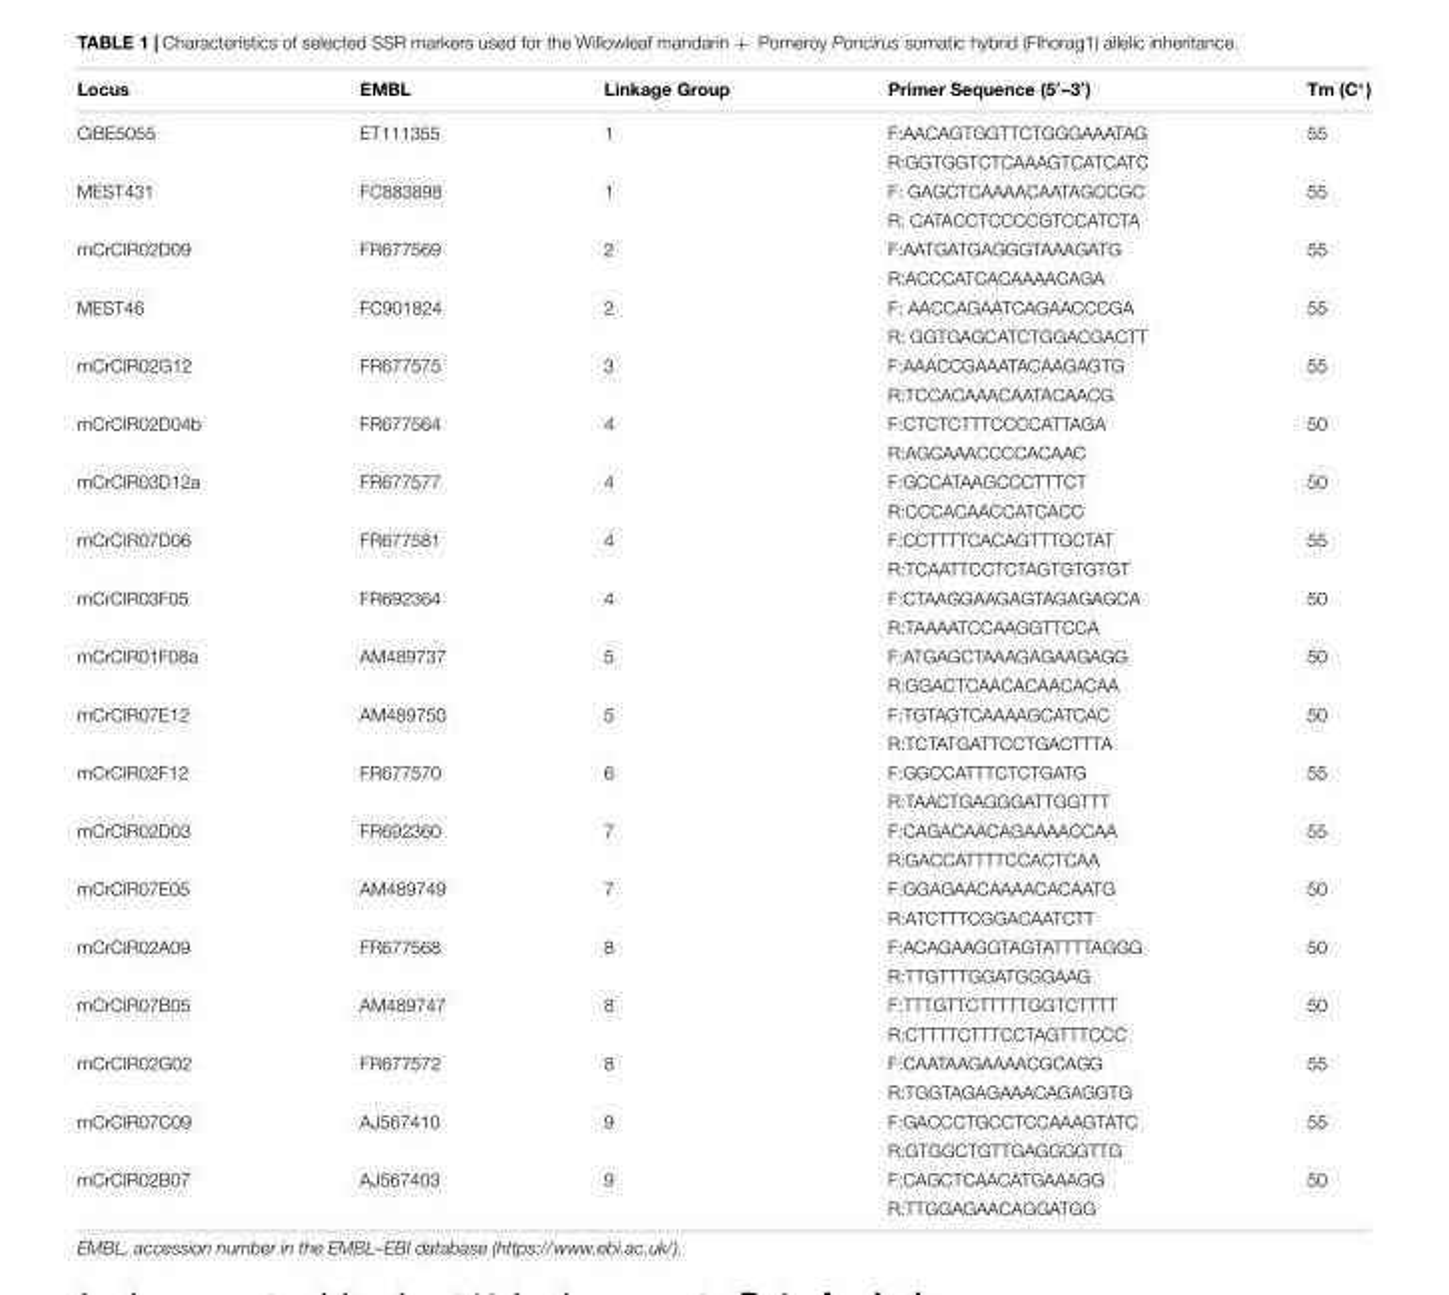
<table><thead><tr><td>Locus</td><td>EMBL</td><td>Linkage Group</td><td>Primer Sequence (5′–3′)</td><td>Tm (C◦)</td></tr></thead><tbody><tr><td rowspan="2">CiBE5055</td><td>ET111355</td><td>1</td><td>F:AACAGTGGTTCTGGGAAATAG</td><td>55</td></tr><tr><td></td><td></td><td>R:GGTGGTCTCAAAGTCATCATC</td><td></td></tr><tr><td rowspan="2">MEST431</td><td>FC883898</td><td>1</td><td>F: GAGCTCAAAACAATAGCCGC</td><td>55</td></tr><tr><td></td><td></td><td>R: CATACCTCCCCGTCCATCTA</td><td></td></tr><tr><td rowspan="2">mCrCIR02D09</td><td>FR677569</td><td>2</td><td>F:AATGATGAGGGTAAAGATG</td><td>55</td></tr><tr><td></td><td></td><td>R:ACCCATCACAAAACAGA</td><td></td></tr><tr><td rowspan="2">MEST46</td><td>FC901824</td><td>2</td><td>F: AACCAGAATCAGAACCCGA</td><td>55</td></tr><tr><td></td><td></td><td>R: GGTGAGCATCTGGACGACTT</td><td></td></tr><tr><td rowspan="2">mCrCIR02G12</td><td>FR677575</td><td>3</td><td>F:AAACCGAAATACAAGAGTG</td><td>55</td></tr><tr><td></td><td></td><td>R:TCCACAAACAATACAACG</td><td></td></tr><tr><td rowspan="2">mCrCIR02D04b</td><td>FR677564</td><td>4</td><td>F:CTCTCTTTCCCCATTAGA</td><td>50</td></tr><tr><td></td><td></td><td>R:AGCAAACCCCACAAC</td><td></td></tr><tr><td rowspan="2">mCrCIR03D12a</td><td>FR677577</td><td>4</td><td>F:GCCATAAGCCCTTTCT</td><td>50</td></tr><tr><td></td><td></td><td>R:CCCACAACCATCACC</td><td></td></tr><tr><td rowspan="2">mCrCIR07D06</td><td>FR677581</td><td>4</td><td>F:CCTTTTCACAGTTTGCTAT</td><td>55</td></tr><tr><td></td><td></td><td>R:TCAATTCCTCTAGTGTGTGT</td><td></td></tr><tr><td rowspan="2">mCrCIR03F05</td><td>FR692364</td><td>4</td><td>F:CTAAGGAAGAGTAGAGAGCA</td><td>50</td></tr><tr><td></td><td></td><td>R:TAAAATCCAAGGTTCCA</td><td></td></tr><tr><td rowspan="2">mCrCIR01F08a</td><td>AM489737</td><td>5</td><td>F:ATGAGCTAAAGAGAAGAGG</td><td>50</td></tr><tr><td></td><td></td><td>R:GGACTCAACACAACACAA</td><td></td></tr><tr><td rowspan="2">mCrCIR07E12</td><td>AM489750</td><td>5</td><td>F:TGTAGTCAAAAGCATCAC</td><td>50</td></tr><tr><td></td><td></td><td>R:TCTATGATTCCTGACTTTA</td><td></td></tr><tr><td rowspan="2">mCrCIR02F12</td><td>FR677570</td><td>6</td><td>F:GGCCATTTCTCTGATG</td><td>55</td></tr><tr><td></td><td></td><td>R:TAACTGAGGGATTGGTTT</td><td></td></tr><tr><td rowspan="2">mCrCIR02D03</td><td>FR692360</td><td>7</td><td>F:CAGACAACAGAAAACCAA</td><td>55</td></tr><tr><td></td><td></td><td>R:GACCATTTTCCACTCAA</td><td></td></tr><tr><td rowspan="2">mCrCIR07E05</td><td>AM489749</td><td>7</td><td>F:GGAGAACAAAACACAATG</td><td>50</td></tr><tr><td></td><td></td><td>R:ATCTTTCGGACAATCTT</td><td></td></tr><tr><td rowspan="2">mCrCIR02A09</td><td>FR677568</td><td>8</td><td>F:ACAGAAGGTAGTATTTTAGGG</td><td>50</td></tr><tr><td></td><td></td><td>R:TTGTTTGGATGGGAAG</td><td></td></tr><tr><td rowspan="2">mCrCIR07B05</td><td>AM489747</td><td>8</td><td>F:TTTGTTCTTTTTGGTCTTTT</td><td>50</td></tr><tr><td></td><td></td><td>R:CTTTTCTTTCCTAGTTTCCC</td><td></td></tr><tr><td rowspan="2">mCrCIR02G02</td><td>FR677572</td><td>8</td><td>F:CAATAAGAAAACGCAGG</td><td>55</td></tr><tr><td></td><td></td><td>R:TGGTAGAGAAACAGAGGTG</td><td></td></tr><tr><td rowspan="2">mCrCIR07C09</td><td>AJ567410</td><td>9</td><td>F:GACCCTGCCTCCAAAGTATC</td><td>55</td></tr><tr><td></td><td></td><td>R:GTGGCTGTTGAGGGGTTG</td><td></td></tr><tr><td rowspan="2">mCrCIR02B07</td><td>AJ567403</td><td>9</td><td>F:CAGCTCAACATGAAAGG</td><td>50</td></tr><tr><td></td><td></td><td>R:TTGGAGAACAGGATGG</td><td></td></tr></tbody></table>